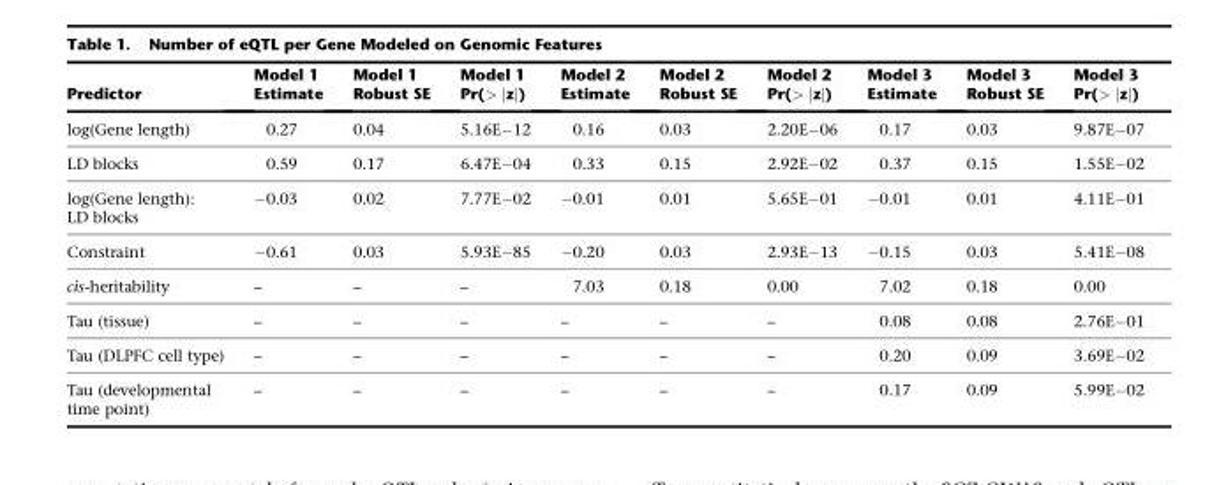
<table><thead><tr><td>Predictor</td><td>Model 1 Estimate</td><td>Model 1 Robust SE</td><td>Model 1 Pr(&gt; |z|)</td><td>Model 2 Estimate</td><td>Model 2 Robust SE</td><td>Model 2 Pr(&gt; |z|)</td><td>Model 3 Estimate</td><td>Model 3 Robust SE</td><td>Model 3 Pr(&gt; |z|)</td></tr></thead><tbody><tr><td>log(Gene length)</td><td>0.27</td><td>0.04</td><td>5.16E−12</td><td>0.16</td><td>0.03</td><td>2.20E−06</td><td>0.17</td><td>0.03</td><td>9.87E−07</td></tr><tr><td>LD blocks</td><td>0.59</td><td>0.17</td><td>6.47E−04</td><td>0.33</td><td>0.15</td><td>2.92E−02</td><td>0.37</td><td>0.15</td><td>1.55E−02</td></tr><tr><td>log(Gene length): LD blocks</td><td>−0.03</td><td>0.02</td><td>7.77E−02</td><td>−0.01</td><td>0.01</td><td>5.65E−01</td><td>−0.01</td><td>0.01</td><td>4.11E−01</td></tr><tr><td>Constraint</td><td>−0.61</td><td>0.03</td><td>5.93E−85</td><td>−0.20</td><td>0.03</td><td>2.93E−13</td><td>−0.15</td><td>0.03</td><td>5.41E−08</td></tr><tr><td>cis-heritability</td><td>–</td><td>–</td><td>–</td><td>7.03</td><td>0.18</td><td>0.00</td><td>7.02</td><td>0.18</td><td>0.00</td></tr><tr><td>Tau (tissue)</td><td>–</td><td>–</td><td>–</td><td>–</td><td>–</td><td>–</td><td>0.08</td><td>0.08</td><td>2.76E−01</td></tr><tr><td>Tau (DLPFC cell type)</td><td>–</td><td>–</td><td>–</td><td>–</td><td>–</td><td>–</td><td>0.20</td><td>0.09</td><td>3.69E−02</td></tr><tr><td>Tau (developmental time point)</td><td>–</td><td>–</td><td>–</td><td>–</td><td>–</td><td>–</td><td>0.17</td><td>0.09</td><td>5.99E−02</td></tr></tbody></table>